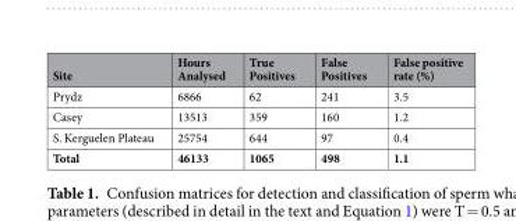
<table><thead><tr><td>Site</td><td>Hours Analysed</td><td>True Positives</td><td>False Positives</td><td>False positive rate (%)</td></tr></thead><tbody><tr><td>Prydz</td><td>6866</td><td>62</td><td>241</td><td>3.5</td></tr><tr><td>Casey</td><td>13513</td><td>359</td><td>160</td><td>1.2</td></tr><tr><td>S. Kerguelen Plateau</td><td>25754</td><td>644</td><td>97</td><td>0.4</td></tr><tr><td>Total</td><td>46133</td><td>1065</td><td>498</td><td>1.1</td></tr></tbody></table>